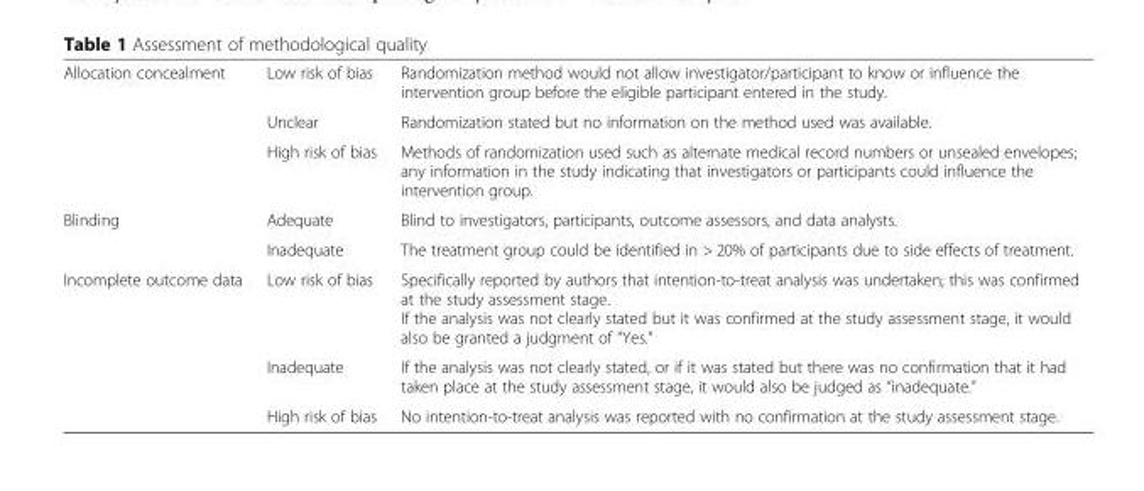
<table><tbody><tr><td rowspan="3">Allocation concealment</td><td>Low risk of bias</td><td>Randomization method would not allow investigator/participant to know or influence the intervention group before the eligible participant entered in the study.</td></tr><tr><td>Unclear</td><td>Randomization stated but no information on the method used was available.</td></tr><tr><td>High risk of bias</td><td>Methods of randomization used such as alternate medical record numbers or unsealed envelopes; any information in the study indicating that investigators or participants could influence the intervention group.</td></tr><tr><td rowspan="2">Blinding</td><td>Adequate</td><td>Blind to investigators, participants, outcome assessors, and data analysts.</td></tr><tr><td>Inadequate</td><td>The treatment group could be identified in &gt; 20% of participants due to side effects of treatment.</td></tr><tr><td rowspan="3">Incomplete outcome data</td><td>Low risk of bias</td><td>Specifically reported by authors that intention-to-treat analysis was undertaken; this was confirmed at the study assessment stage. If the analysis was not clearly stated but it was confirmed at the study assessment stage, it would also be granted a judgment of “Yes.”</td></tr><tr><td>Inadequate</td><td>If the analysis was not clearly stated, or if it was stated but there was no confirmation that it had taken place at the study assessment stage, it would also be judged as “inadequate.”</td></tr><tr><td>High risk of bias</td><td>No intention-to-treat analysis was reported with no confirmation at the study assessment stage.</td></tr></tbody></table>